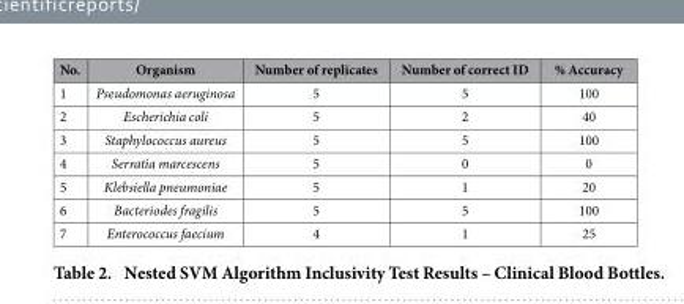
<table><thead><tr><td>No.</td><td>Organism</td><td>Number of replicates</td><td>Number of correct ID</td><td>% Accuracy</td></tr></thead><tbody><tr><td>1</td><td>Pseudomonas aeruginosa</td><td>5</td><td>5</td><td>100</td></tr><tr><td>2</td><td>Escherichia coli</td><td>5</td><td>2</td><td>40</td></tr><tr><td>3</td><td>Staphylococcus aureus</td><td>5</td><td>5</td><td>100</td></tr><tr><td>4</td><td>Serratia marcescens</td><td>5</td><td>0</td><td>0</td></tr><tr><td>5</td><td>Klebsiella pneumoniae</td><td>5</td><td>1</td><td>20</td></tr><tr><td>6</td><td>Bacteriodes fragilis</td><td>5</td><td>5</td><td>100</td></tr><tr><td>7</td><td>Enterococcus faecium</td><td>4</td><td>1</td><td>25</td></tr></tbody></table>